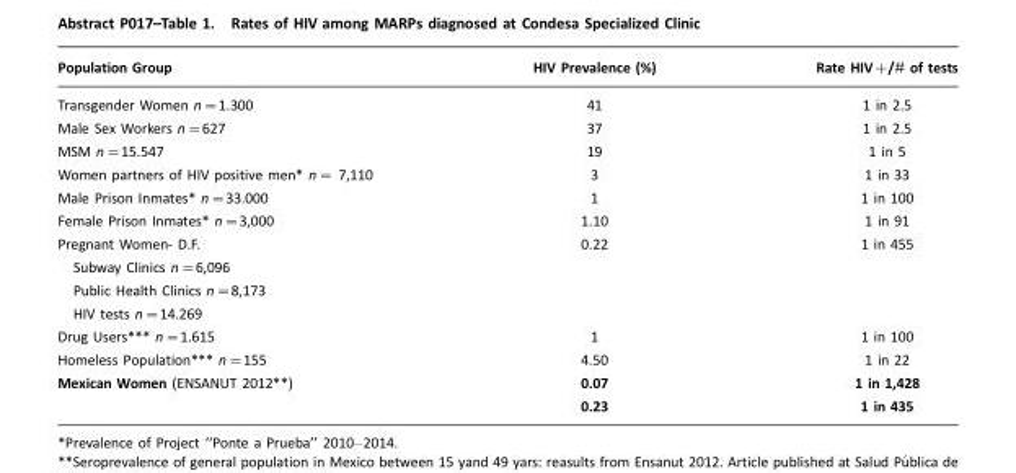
<table><thead><tr><td>Population Group</td><td>HIV Prevalence (%)</td><td>Rate HIV+/# of tests</td></tr></thead><tbody><tr><td>Transgender Women n=1.300</td><td>41</td><td>1 in 2.5</td></tr><tr><td>Male Sex Workers n=627</td><td>37</td><td>1 in 2.5</td></tr><tr><td>MSM n=15.547</td><td>19</td><td>1 in 5</td></tr><tr><td>Women partners of HIV positive men* n= 7,110</td><td>3</td><td>1 in 33</td></tr><tr><td>Male Prison Inmates* n=33.000</td><td>1</td><td>1 in 100</td></tr><tr><td>Female Prison Inmates* n=3,000</td><td>1.10</td><td>1 in 91</td></tr><tr><td>Pregnant Women- D.F. Subway Clinics n=6,096 Public Health Clinics n=8,173 HIV tests n=14.269</td><td>0.22</td><td>1 in 455</td></tr><tr><td>Drug Users*** n=1.615</td><td>1</td><td>1 in 100</td></tr><tr><td>Homeless Population*** n=155</td><td>4.50</td><td>1 in 22</td></tr><tr><td>Mexican Women (ENSANUT 2012**)</td><td>0.07 0.23</td><td>1 in 1,428 1 in 435</td></tr></tbody></table>